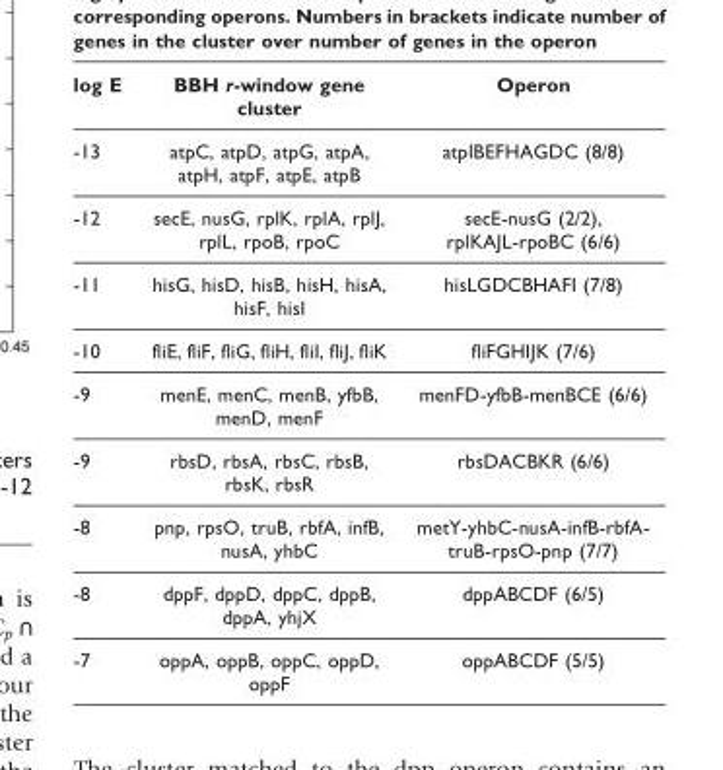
<table><thead><tr><td>log E</td><td>BBH r-window gene cluster</td><td>Operon</td></tr></thead><tbody><tr><td>-13</td><td>atpC, atpD, atpG, atpA, atpH, atpF, atpE, atpB</td><td>atpIBEFHAGDC (8/8)</td></tr><tr><td>-12</td><td>secE, nusG, rplK, rplA, rplJ, rplL, rpoB, rpoC</td><td>secE-nusG (2/2), rplKAJL-rpoBC (6/6)</td></tr><tr><td>-11</td><td>hisG, hisD, hisB, hisH, hisA, hisF, hisI</td><td>hisLGDCBHAFI (7/8)</td></tr><tr><td>-10</td><td>fliE, fliF, fliG, fliH, fliI, fliJ, fliK</td><td>fliFGHIJK (7/6)</td></tr><tr><td>-9</td><td>menE, menC, menB, yfbB, menD, menF</td><td>menFD-yfbB-menBCE (6/6)</td></tr><tr><td>-9</td><td>rbsD, rbsA, rbsC, rbsB, rbsK, rbsR</td><td>rbsDACBKR (6/6)</td></tr><tr><td>-8</td><td>pnp, rpsO, truB, rbfA, infB, nusA, yhbC</td><td>metY-yhbC-nusA-infB-rbfA- truB-rpsO-pnp (7/7)</td></tr><tr><td>-8</td><td>dppF, dppD, dppC, dppB, dppA, yhjX</td><td>dppABCDF (6/5)</td></tr><tr><td>-7</td><td>oppA, oppB, oppC, oppD, oppF</td><td>oppABCDF (5/5)</td></tr></tbody></table>